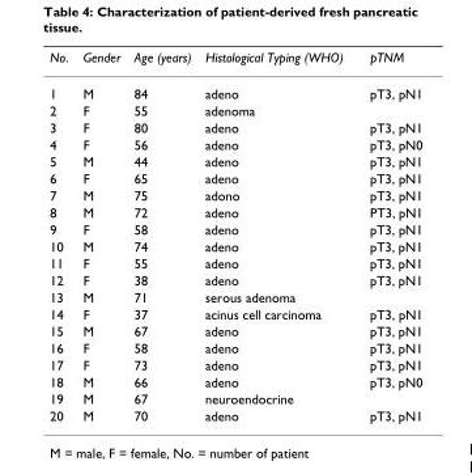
<table><thead><tr><td>No.</td><td>Gender</td><td>Age (years)</td><td>Histological Typing (WHO)</td><td>pTNM</td></tr></thead><tbody><tr><td>1</td><td>M</td><td>84</td><td>adeno</td><td>pT3, pN1</td></tr><tr><td>2</td><td>F</td><td>55</td><td>adenoma</td><td></td></tr><tr><td>3</td><td>F</td><td>80</td><td>adeno</td><td>pT3, pN1</td></tr><tr><td>4</td><td>F</td><td>56</td><td>adeno</td><td>pT3, pN0</td></tr><tr><td>5</td><td>M</td><td>44</td><td>adeno</td><td>pT3, pN1</td></tr><tr><td>6</td><td>F</td><td>65</td><td>adeno</td><td>pT3, pN1</td></tr><tr><td>7</td><td>M</td><td>75</td><td>adono</td><td>pT3, pN1</td></tr><tr><td>8</td><td>M</td><td>72</td><td>adeno</td><td>PT3, pN1</td></tr><tr><td>9</td><td>F</td><td>58</td><td>adeno</td><td>pT3, pN1</td></tr><tr><td>10</td><td>M</td><td>74</td><td>adeno</td><td>pT3, pN1</td></tr><tr><td>11</td><td>F</td><td>55</td><td>adeno</td><td>pT3, pN1</td></tr><tr><td>12</td><td>F</td><td>38</td><td>adeno</td><td>pT3, pN1</td></tr><tr><td>13</td><td>M</td><td>71</td><td>serous adenoma</td><td></td></tr><tr><td>14</td><td>F</td><td>37</td><td>acinus cell carcinoma</td><td>pT3, pN1</td></tr><tr><td>15</td><td>M</td><td>67</td><td>adeno</td><td>pT3, pN1</td></tr><tr><td>16</td><td>F</td><td>58</td><td>adeno</td><td>pT3, pN1</td></tr><tr><td>17</td><td>F</td><td>73</td><td>adeno</td><td>pT3, pN1</td></tr><tr><td>18</td><td>M</td><td>66</td><td>adeno</td><td>pT3, pN0</td></tr><tr><td>19</td><td>M</td><td>67</td><td>neuroendocrine</td><td></td></tr><tr><td>20</td><td>M</td><td>70</td><td>adeno</td><td>pT3, pN1</td></tr></tbody></table>